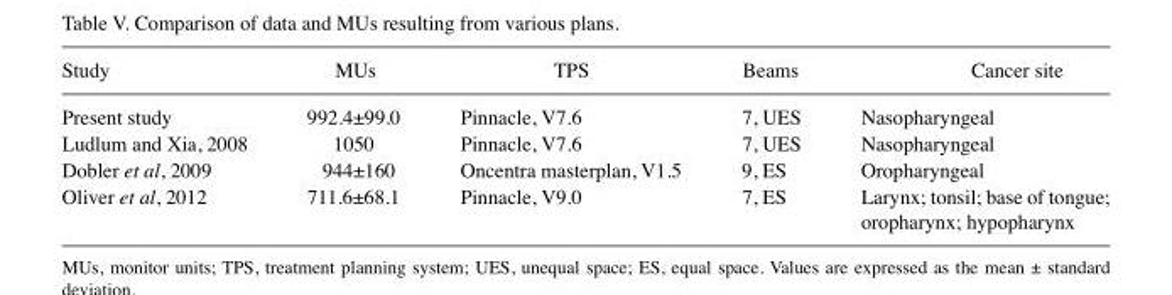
<table><thead><tr><td>Study</td><td>MUs</td><td>TPS</td><td>Beams</td><td>Cancer site</td></tr></thead><tbody><tr><td>Present study</td><td>992.4±99.0</td><td>Pinnacle, V7.6</td><td>7, UES</td><td>Nasopharyngeal</td></tr><tr><td>Ludlum and Xia, 2008</td><td>1050</td><td>Pinnacle, V7.6</td><td>7, UES</td><td>Nasopharyngeal</td></tr><tr><td>Dobler et al, 2009</td><td>944±160</td><td>Oncentra masterplan, V1.5</td><td>9, ES</td><td>Oropharyngeal</td></tr><tr><td>Oliver et al, 2012</td><td>711.6±68.1</td><td>Pinnacle, V9.0</td><td>7, ES</td><td>Larynx; tonsil; base of tongue; oropharynx; hypopharynx</td></tr></tbody></table>